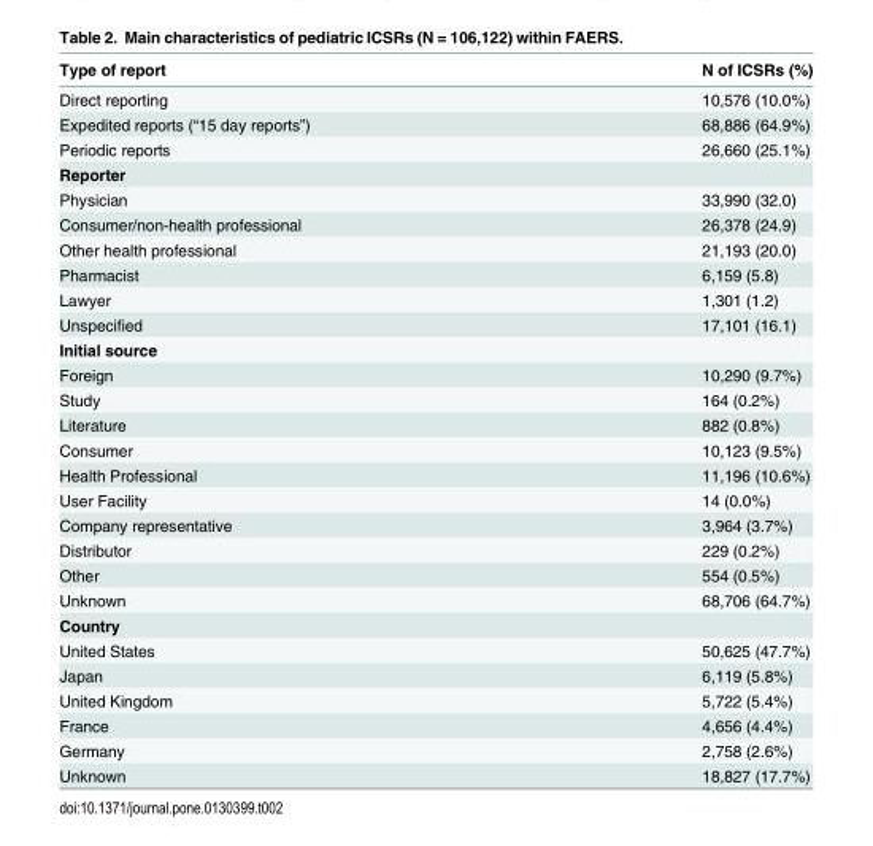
<table><thead><tr><td>Type of report</td><td>N of ICSRs (%)</td></tr></thead><tbody><tr><td>Direct reporting</td><td>10,576 (10.0%)</td></tr><tr><td>Expedited reports (“15 day reports”)</td><td>68,886 (64.9%)</td></tr><tr><td>Periodic reports</td><td>26,660 (25.1%)</td></tr><tr><td colspan="2">Reporter</td></tr><tr><td>Physician</td><td>33,990 (32.0)</td></tr><tr><td>Consumer/non-health professional</td><td>26,378 (24.9)</td></tr><tr><td>Other health professional</td><td>21,193 (20.0)</td></tr><tr><td>Pharmacist</td><td>6,159 (5.8)</td></tr><tr><td>Lawyer</td><td>1,301 (1.2)</td></tr><tr><td>Unspecified</td><td>17,101 (16.1)</td></tr><tr><td colspan="2">Initial source</td></tr><tr><td>Foreign</td><td>10,290 (9.7%)</td></tr><tr><td>Study</td><td>164 (0.2%)</td></tr><tr><td>Literature</td><td>882 (0.8%)</td></tr><tr><td>Consumer</td><td>10,123 (9.5%)</td></tr><tr><td>Health Professional</td><td>11,196 (10.6%)</td></tr><tr><td>User Facility</td><td>14 (0.0%)</td></tr><tr><td>Company representative</td><td>3,964 (3.7%)</td></tr><tr><td>Distributor</td><td>229 (0.2%)</td></tr><tr><td>Other</td><td>554 (0.5%)</td></tr><tr><td>Unknown</td><td>68,706 (64.7%)</td></tr><tr><td colspan="2">Country</td></tr><tr><td>United States</td><td>50,625 (47.7%)</td></tr><tr><td>Japan</td><td>6,119 (5.8%)</td></tr><tr><td>United Kingdom</td><td>5,722 (5.4%)</td></tr><tr><td>France</td><td>4,656 (4.4%)</td></tr><tr><td>Germany</td><td>2,758 (2.6%)</td></tr><tr><td>Unknown</td><td>18,827 (17.7%)</td></tr></tbody></table>